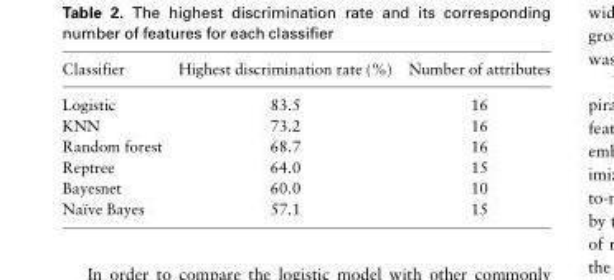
<table><thead><tr><td>Classifier</td><td>Highest discrimination rate (%)</td><td>Number of attributes</td></tr></thead><tbody><tr><td>Logistic</td><td>83.5</td><td>16</td></tr><tr><td>KNN</td><td>73.2</td><td>16</td></tr><tr><td>Random forest</td><td>68.7</td><td>16</td></tr><tr><td>Reptree</td><td>64.0</td><td>15</td></tr><tr><td>Bayesnet</td><td>60.0</td><td>10</td></tr><tr><td>Naı¨ve Bayes</td><td>57.1</td><td>15</td></tr></tbody></table>